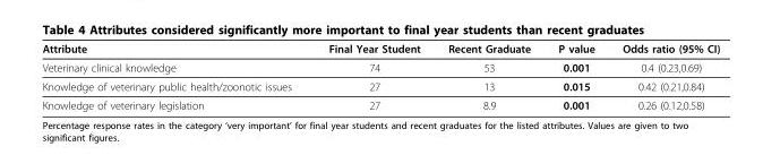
<table><thead><tr><td>Attribute</td><td>Final Year Student</td><td>Recent Graduate</td><td>P value</td><td>Odds ratio (95% CI)</td></tr></thead><tbody><tr><td>Veterinary clinical knowledge</td><td>74</td><td>53</td><td>0.001</td><td>0.4 (0.23,0.69)</td></tr><tr><td>Knowledge of veterinary public health/zoonotic issues</td><td>27</td><td>13</td><td>0.015</td><td>0.42 (0.21,0.84)</td></tr><tr><td>Knowledge of veterinary legislation</td><td>27</td><td>8.9</td><td>0.001</td><td>0.26 (0.12,0.58)</td></tr></tbody></table>